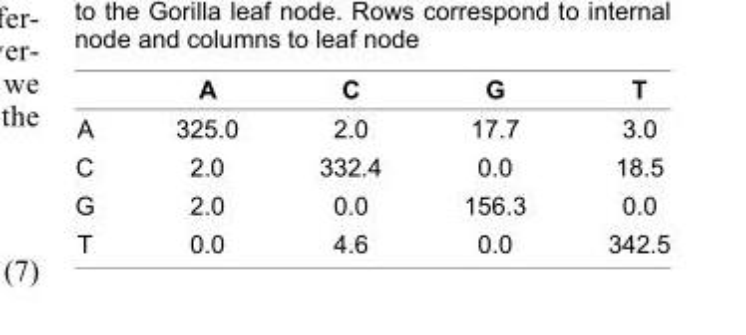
<table><thead><tr><td></td><td>A</td><td>C</td><td>G</td><td>T</td></tr></thead><tbody><tr><td>A</td><td>325.0</td><td>2.0</td><td>17.7</td><td>3.0</td></tr><tr><td>C</td><td>2.0</td><td>332.4</td><td>0.0</td><td>18.5</td></tr><tr><td>G</td><td>2.0</td><td>0.0</td><td>156.3</td><td>0.0</td></tr><tr><td>T</td><td>0.0</td><td>4.6</td><td>0.0</td><td>342.5</td></tr></tbody></table>